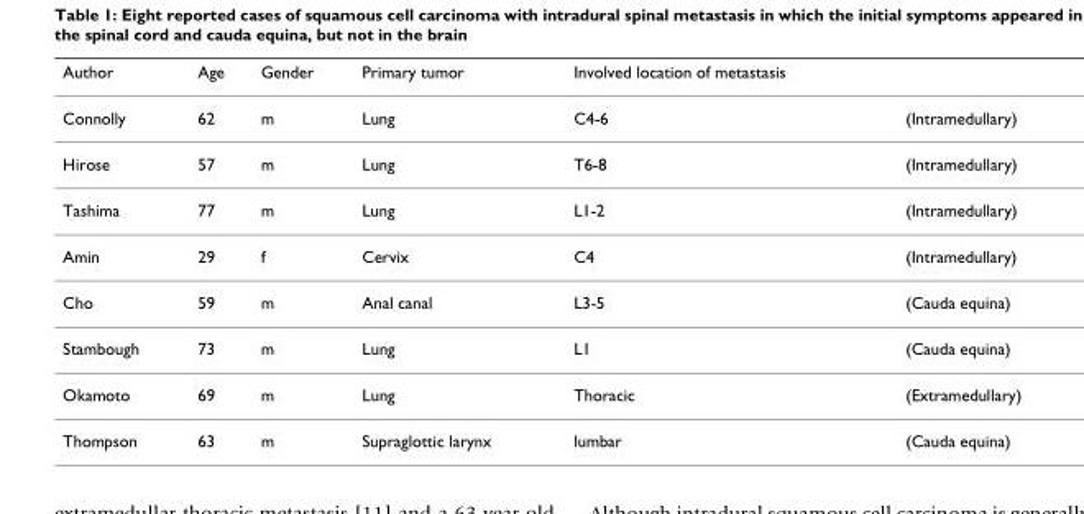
<table><thead><tr><td>Author</td><td>Age</td><td>Gender</td><td>Primary tumor</td><td>Involved location of metastasis</td><td></td></tr></thead><tbody><tr><td>Connolly</td><td>62</td><td>m</td><td>Lung</td><td>C4-6</td><td>(Intramedullary)</td></tr><tr><td>Hirose</td><td>57</td><td>m</td><td>Lung</td><td>T6-8</td><td>(Intramedullary)</td></tr><tr><td>Tashima</td><td>77</td><td>m</td><td>Lung</td><td>L1-2</td><td>(Intramedullary)</td></tr><tr><td>Amin</td><td>29</td><td>f</td><td>Cervix</td><td>C4</td><td>(Intramedullary)</td></tr><tr><td>Cho</td><td>59</td><td>m</td><td>Anal canal</td><td>L3-5</td><td>(Cauda equina)</td></tr><tr><td>Stambough</td><td>73</td><td>m</td><td>Lung</td><td>L1</td><td>(Cauda equina)</td></tr><tr><td>Okamoto</td><td>69</td><td>m</td><td>Lung</td><td>Thoracic</td><td>(Extramedullary)</td></tr><tr><td>Thompson</td><td>63</td><td>m</td><td>Supraglottic larynx</td><td>lumbar</td><td>(Cauda equina)</td></tr></tbody></table>